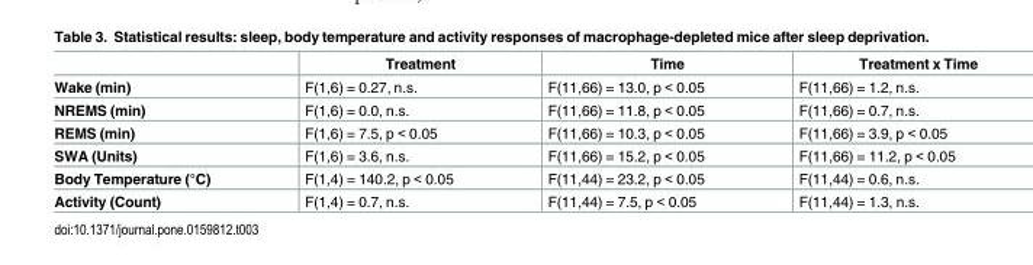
<table><thead><tr><td></td><td>Treatment</td><td>Time</td><td>Treatment x Time</td></tr></thead><tbody><tr><td>Wake (min)</td><td>F(1,6) = 0.27, n.s.</td><td>F(11,66) = 13.0, p &lt; 0.05</td><td>F(11,66) = 1.2, n.s.</td></tr><tr><td>NREMS (min)</td><td>F(1,6) = 0.0, n.s.</td><td>F(11,66) = 11.8, p &lt; 0.05</td><td>F(11,66) = 0.7, n.s.</td></tr><tr><td>REMS (min)</td><td>F(1,6) = 7.5, p &lt; 0.05</td><td>F(11,66) = 10.3, p &lt; 0.05</td><td>F(11,66) = 3.9, p &lt; 0.05</td></tr><tr><td>SWA (Units)</td><td>F(1,6) = 3.6, n.s.</td><td>F(11,66) = 15.2, p &lt; 0.05</td><td>F(11,66) = 11.2, p &lt; 0.05</td></tr><tr><td>Body Temperature (°C)</td><td>F(1,4) = 140.2, p &lt; 0.05</td><td>F(11,44) = 23.2, p &lt; 0.05</td><td>F(11,44) = 0.6, n.s.</td></tr><tr><td>Activity (Count)</td><td>F(1,4) = 0.7, n.s.</td><td>F(11,44) = 7.5, p &lt; 0.05</td><td>F(11,44) = 1.3, n.s.</td></tr></tbody></table>